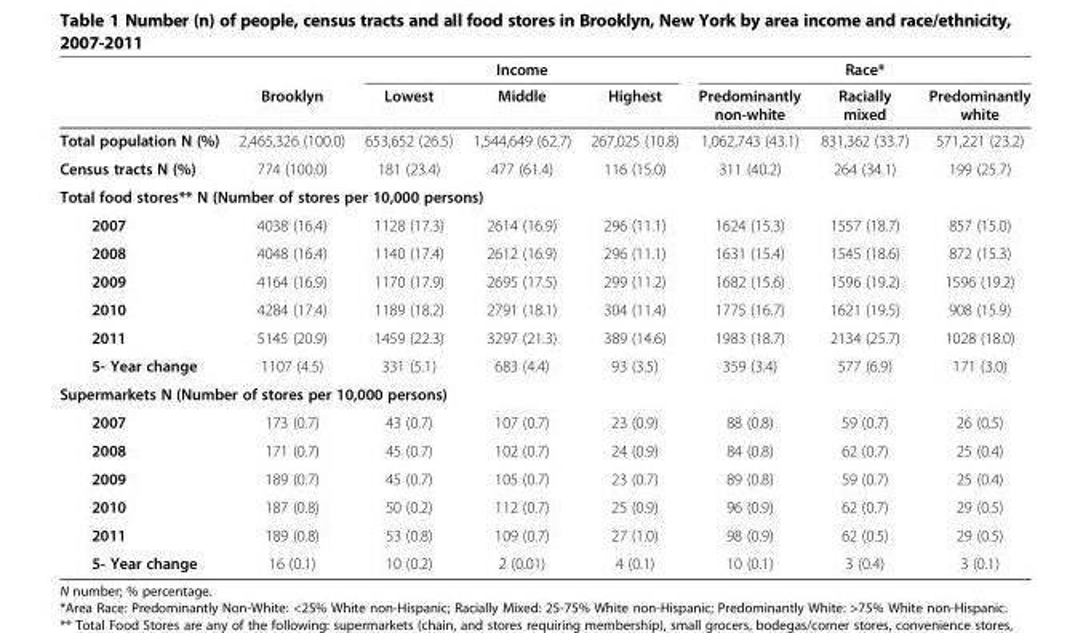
<table><thead><tr><td rowspan="2"></td><td rowspan="2">Brooklyn</td><td colspan="3">Income</td><td colspan="3">Race*</td></tr><tr><td>Lowest</td><td>Middle</td><td>Highest</td><td>Predominantly non-white</td><td>Racially mixed</td><td>Predominantly white</td></tr></thead><tbody><tr><td>Total population N (%)</td><td>2,465,326 (100.0)</td><td>653,652 (26.5)</td><td>1,544,649 (62.7)</td><td>267,025 (10.8)</td><td>1,062,743 (43.1)</td><td>831,362 (33.7)</td><td>571,221 (23.2)</td></tr><tr><td>Census tracts N (%)</td><td>774 (100.0)</td><td>181 (23.4)</td><td>477 (61.4)</td><td>116 (15.0)</td><td>311 (40.2)</td><td>264 (34.1)</td><td>199 (25.7)</td></tr><tr><td colspan="8">Total food stores** N (Number of stores per 10,000 persons)</td></tr><tr><td>2007</td><td>4038 (16.4)</td><td>1128 (17.3)</td><td>2614 (16.9)</td><td>296 (11.1)</td><td>1624 (15.3)</td><td>1557 (18.7)</td><td>857 (15.0)</td></tr><tr><td>2008</td><td>4048 (16.4)</td><td>1140 (17.4)</td><td>2612 (16.9)</td><td>296 (11.1)</td><td>1631 (15.4)</td><td>1545 (18.6)</td><td>872 (15.3)</td></tr><tr><td>2009</td><td>4164 (16.9)</td><td>1170 (17.9)</td><td>2695 (17.5)</td><td>299 (11.2)</td><td>1682 (15.6)</td><td>1596 (19.2)</td><td>1596 (19.2)</td></tr><tr><td>2010</td><td>4284 (17.4)</td><td>1189 (18.2)</td><td>2791 (18.1)</td><td>304 (11.4)</td><td>1775 (16.7)</td><td>1621 (19.5)</td><td>908 (15.9)</td></tr><tr><td>2011</td><td>5145 (20.9)</td><td>1459 (22.3)</td><td>3297 (21.3)</td><td>389 (14.6)</td><td>1983 (18.7)</td><td>2134 (25.7)</td><td>1028 (18.0)</td></tr><tr><td>5- Year change</td><td>1107 (4.5)</td><td>331 (5.1)</td><td>683 (4.4)</td><td>93 (3.5)</td><td>359 (3.4)</td><td>577 (6.9)</td><td>171 (3.0)</td></tr><tr><td colspan="8">Supermarkets N (Number of stores per 10,000 persons)</td></tr><tr><td>2007</td><td>173 (0.7)</td><td>43 (0.7)</td><td>107 (0.7)</td><td>23 (0.9)</td><td>88 (0.8)</td><td>59 (0.7)</td><td>26 (0.5)</td></tr><tr><td>2008</td><td>171 (0.7)</td><td>45 (0.7)</td><td>102 (0.7)</td><td>24 (0.9)</td><td>84 (0.8)</td><td>62 (0.7)</td><td>25 (0.4)</td></tr><tr><td>2009</td><td>189 (0.7)</td><td>45 (0.7)</td><td>105 (0.7)</td><td>23 (0.7)</td><td>89 (0.8)</td><td>59 (0.7)</td><td>25 (0.4)</td></tr><tr><td>2010</td><td>187 (0.8)</td><td>50 (0.2)</td><td>112 (0.7)</td><td>25 (0.9)</td><td>96 (0.9)</td><td>62 (0.7)</td><td>29 (0.5)</td></tr><tr><td>2011</td><td>189 (0.8)</td><td>53 (0.8)</td><td>109 (0.7)</td><td>27 (1.0)</td><td>98 (0.9)</td><td>62 (0.5)</td><td>29 (0.5)</td></tr><tr><td>5- Year change</td><td>16 (0.1)</td><td>10 (0.2)</td><td>2 (0.01)</td><td>4 (0.1)</td><td>10 (0.1)</td><td>3 (0.4)</td><td>3 (0.1)</td></tr></tbody></table>